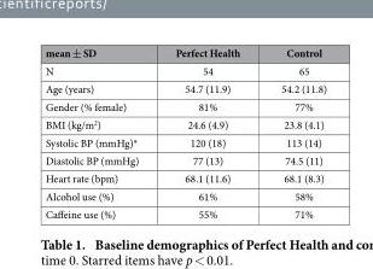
<table><thead><tr><td>mean ± SD</td><td>Perfect Health</td><td>Control</td></tr></thead><tbody><tr><td>N</td><td>54</td><td>65</td></tr><tr><td>Age (years)</td><td>54.7 (11.9)</td><td>54.2 (11.8)</td></tr><tr><td>Gender (% female)</td><td>81%</td><td>77%</td></tr><tr><td>BMI (kg/m<sup>2</sup>)</td><td>24.6 (4.9)</td><td>23.8 (4.1)</td></tr><tr><td>Systolic BP (mmHg)*</td><td>120 (18)</td><td>113 (14)</td></tr><tr><td>Diastolic BP (mmHg)</td><td>77 (13)</td><td>74.5 (11)</td></tr><tr><td>Heart rate (bpm)</td><td>68.1 (11.6)</td><td>68.1 (8.3)</td></tr><tr><td>Alcohol use (%)</td><td>61%</td><td>58%</td></tr><tr><td>Caffeine use (%)</td><td>55%</td><td>71%</td></tr></tbody></table>